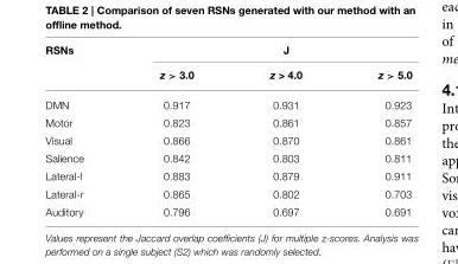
<table><thead><tr><td rowspan="2">RSNs</td><td colspan="3">J</td></tr><tr><td>z &gt; 3.0</td><td>z &gt; 4.0</td><td>z &gt; 5.0</td></tr></thead><tbody><tr><td>DMN</td><td>0.917</td><td>0.931</td><td>0.923</td></tr><tr><td>Motor</td><td>0.823</td><td>0.861</td><td>0.857</td></tr><tr><td>Visual</td><td>0.866</td><td>0.870</td><td>0.861</td></tr><tr><td>Salience</td><td>0.842</td><td>0.803</td><td>0.811</td></tr><tr><td>Lateral-l</td><td>0.883</td><td>0.879</td><td>0.911</td></tr><tr><td>Lateral-r</td><td>0.865</td><td>0.802</td><td>0.703</td></tr><tr><td>Auditory</td><td>0.796</td><td>0.697</td><td>0.691</td></tr></tbody></table>